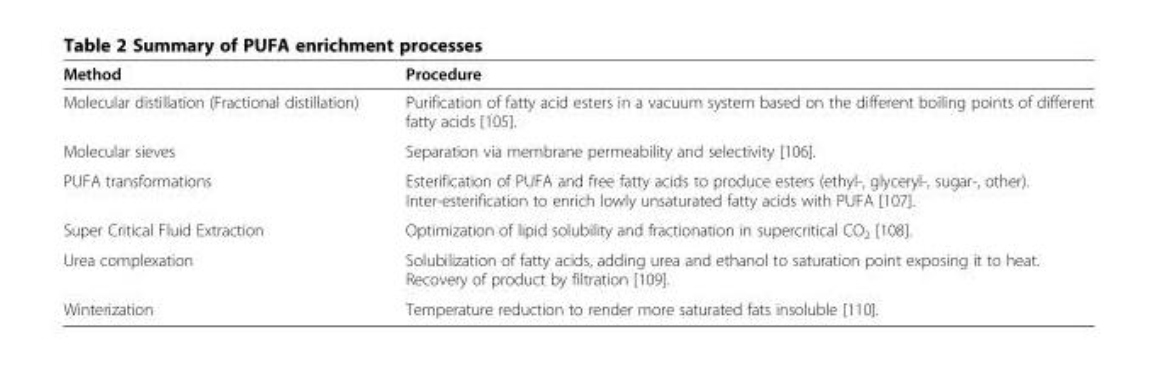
<table><thead><tr><td>Method</td><td>Procedure</td></tr></thead><tbody><tr><td>Molecular distillation (Fractional distillation)</td><td>Purification of fatty acid esters in a vacuum system based on the different boiling points of different fatty acids [105].</td></tr><tr><td>Molecular sieves</td><td>Separation via membrane permeability and selectivity [106].</td></tr><tr><td>PUFA transformations</td><td>Esterification of PUFA and free fatty acids to produce esters (ethyl-, glyceryl-, sugar-, other). Inter-esterification to enrich lowly unsaturated fatty acids with PUFA [107].</td></tr><tr><td>Super Critical Fluid Extraction</td><td>Optimization of lipid solubility and fractionation in supercritical CO<sub>2</sub> [108].</td></tr><tr><td>Urea complexation</td><td>Solubilization of fatty acids, adding urea and ethanol to saturation point exposing it to heat. Recovery of product by filtration [109].</td></tr><tr><td>Winterization</td><td>Temperature reduction to render more saturated fats insoluble [110].</td></tr></tbody></table>